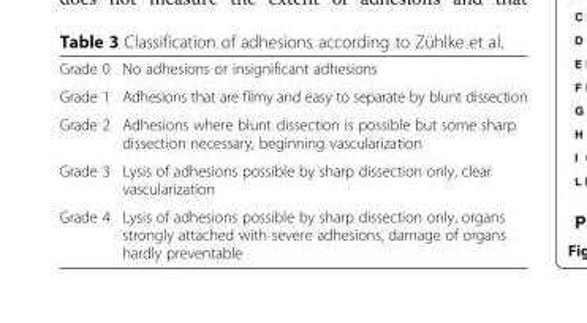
<table><tbody><tr><td>Grade 0</td><td>No adhesions or insignificant adhesions</td></tr><tr><td>Grade 1</td><td>Adhesions that are filmy and easy to separate by blunt dissection</td></tr><tr><td>Grade 2</td><td>Adhesions where blunt dissection is possible but some sharp dissection necessary, beginning vascularization</td></tr><tr><td>Grade 3</td><td>Lysis of adhesions possible by sharp dissection only, clear vascularization</td></tr><tr><td>Grade 4</td><td>Lysis of adhesions possible by sharp dissection only, organs strongly attached with severe adhesions, damage of organs hardly preventable</td></tr></tbody></table>